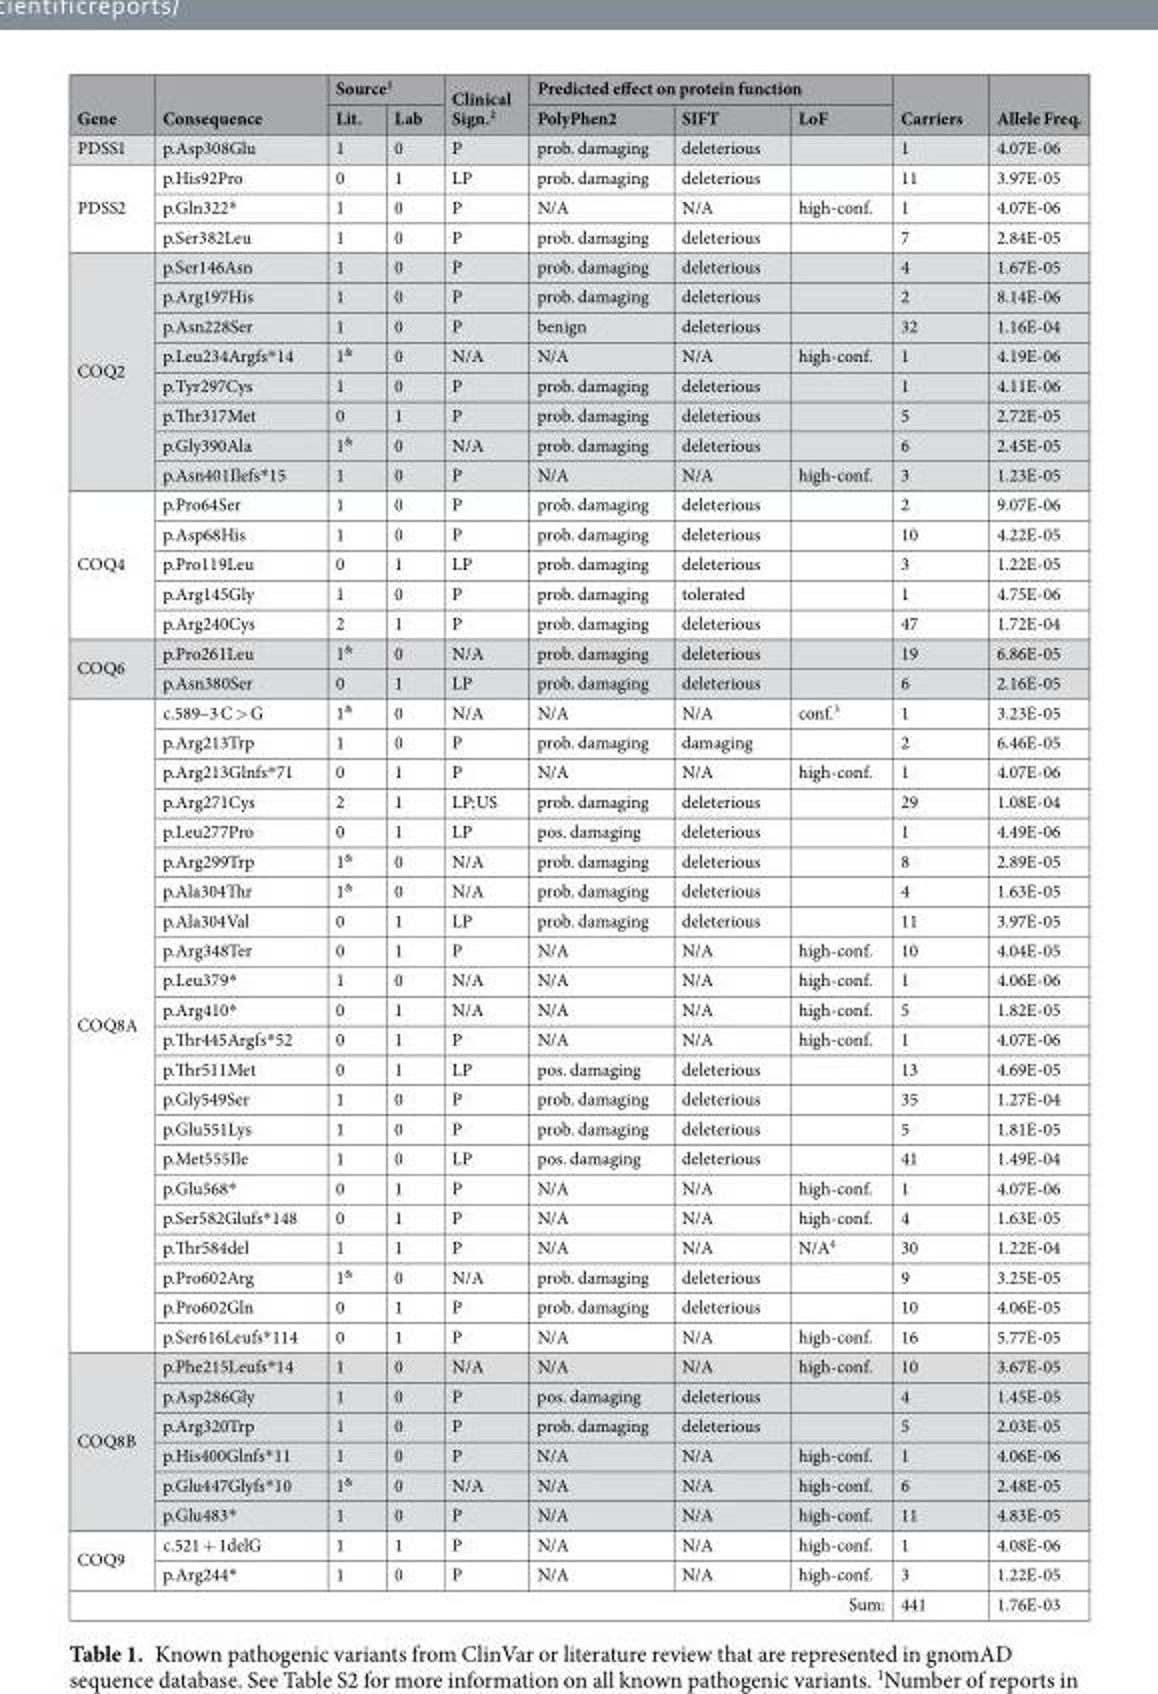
<table><thead><tr><td rowspan="2">Gene</td><td rowspan="2">Consequence</td><td colspan="2">Source<sup>1</sup></td><td rowspan="2">Clinical Sign.<sup>2</sup></td><td colspan="3">Predicted effect on protein function</td><td rowspan="2">Carriers</td><td rowspan="2">Allele Freq.</td></tr><tr><td>Lit.</td><td>Lab</td><td>PolyPhen2</td><td>SIFT</td><td>LoF</td></tr></thead><tbody><tr><td>PDSS1</td><td>p.Asp308Glu</td><td>1</td><td>0</td><td>P</td><td>prob. damaging</td><td>deleterious</td><td></td><td>1</td><td>4.07E-06</td></tr><tr><td rowspan="3">PDSS2</td><td>p.His92Pro</td><td>0</td><td>1</td><td>LP</td><td>prob. damaging</td><td>deleterious</td><td></td><td>11</td><td>3.97E-05</td></tr><tr><td>p.Gln322*</td><td>1</td><td>0</td><td>P</td><td>N/A</td><td>N/A</td><td>high-conf.</td><td>1</td><td>4.07E-06</td></tr><tr><td>p.Ser382Leu</td><td>1</td><td>0</td><td>P</td><td>prob. damaging</td><td>deleterious</td><td></td><td>7</td><td>2.84E-05</td></tr><tr><td rowspan="8">COQ2</td><td>p.Ser146Asn</td><td>1</td><td>0</td><td>P</td><td>prob. damaging</td><td>deleterious</td><td></td><td>4</td><td>1.67E-05</td></tr><tr><td>p.Arg197His</td><td>1</td><td>0</td><td>P</td><td>prob. damaging</td><td>deleterious</td><td></td><td>2</td><td>8.14E-06</td></tr><tr><td>p.Asn228Ser</td><td>1</td><td>0</td><td>P</td><td>benign</td><td>deleterious</td><td></td><td>32</td><td>1.16E-04</td></tr><tr><td>p.Leu234Argfs*14</td><td>1<sup>&amp;</sup></td><td>0</td><td>N/A</td><td>N/A</td><td>N/A</td><td>high-conf.</td><td>1</td><td>4.19E-06</td></tr><tr><td>p.Tyr297Cys</td><td>1</td><td>0</td><td>P</td><td>prob. damaging</td><td>deleterious</td><td></td><td>1</td><td>4.11E-06</td></tr><tr><td>p.Thr317Met</td><td>0</td><td>1</td><td>P</td><td>prob. damaging</td><td>deleterious</td><td></td><td>5</td><td>2.72E-05</td></tr><tr><td>p.Gly390Ala</td><td>1<sup>&amp;</sup></td><td>0</td><td>N/A</td><td>prob. damaging</td><td>deleterious</td><td></td><td>6</td><td>2.45E-05</td></tr><tr><td>p.Asn401Ilefs*15</td><td>1</td><td>0</td><td>P</td><td>N/A</td><td>N/A</td><td>high-conf.</td><td>3</td><td>1.23E-05</td></tr><tr><td rowspan="5">COQ4</td><td>p.Pro64Ser</td><td>1</td><td>0</td><td>P</td><td>prob. damaging</td><td>deleterious</td><td></td><td>2</td><td>9.07E-06</td></tr><tr><td>p.Asp68His</td><td>1</td><td>0</td><td>P</td><td>prob. damaging</td><td>deleterious</td><td></td><td>10</td><td>4.22E-05</td></tr><tr><td>p.Pro119Leu</td><td>0</td><td>1</td><td>LP</td><td>prob. damaging</td><td>deleterious</td><td></td><td>3</td><td>1.22E-05</td></tr><tr><td>p.Arg145Gly</td><td>1</td><td>0</td><td>P</td><td>prob. damaging</td><td>tolerated</td><td></td><td>1</td><td>4.75E-06</td></tr><tr><td>p.Arg240Cys</td><td>2</td><td>1</td><td>P</td><td>prob. damaging</td><td>deleterious</td><td></td><td>47</td><td>1.72E-04</td></tr><tr><td rowspan="2">COQ6</td><td>p.Pro261Leu</td><td>1<sup>&amp;</sup></td><td>0</td><td>N/A</td><td>prob. damaging</td><td>deleterious</td><td></td><td>19</td><td>6.86E-05</td></tr><tr><td>p.Asn380Ser</td><td>0</td><td>1</td><td>LP</td><td>prob. damaging</td><td>deleterious</td><td></td><td>6</td><td>2.16E-05</td></tr><tr><td rowspan="22">COQ8A</td><td>c.589–3 C &gt; G</td><td>1<sup>&amp;</sup></td><td>0</td><td>N/A</td><td>N/A</td><td>N/A</td><td>conf.<sup>3</sup></td><td>1</td><td>3.23E-05</td></tr><tr><td>p.Arg213Trp</td><td>1</td><td>0</td><td>P</td><td>prob. damaging</td><td>damaging</td><td></td><td>2</td><td>6.46E-05</td></tr><tr><td>p.Arg213Glnfs*71</td><td>0</td><td>1</td><td>P</td><td>N/A</td><td>N/A</td><td>high-conf.</td><td>1</td><td>4.07E-06</td></tr><tr><td>p.Arg271Cys</td><td>2</td><td>1</td><td>LP;US</td><td>prob. damaging</td><td>deleterious</td><td></td><td>29</td><td>1.08E-04</td></tr><tr><td>p.Leu277Pro</td><td>0</td><td>1</td><td>LP</td><td>pos. damaging</td><td>deleterious</td><td></td><td>1</td><td>4.49E-06</td></tr><tr><td>p.Arg299Trp</td><td>1<sup>&amp;</sup></td><td>0</td><td>N/A</td><td>prob. damaging</td><td>deleterious</td><td></td><td>8</td><td>2.89E-05</td></tr><tr><td>p.Ala304Thr</td><td>1<sup>&amp;</sup></td><td>0</td><td>N/A</td><td>prob. damaging</td><td>deleterious</td><td></td><td>4</td><td>1.63E-05</td></tr><tr><td>p.Ala304Val</td><td>0</td><td>1</td><td>LP</td><td>prob. damaging</td><td>deleterious</td><td></td><td>11</td><td>3.97E-05</td></tr><tr><td>p.Arg348Ter</td><td>0</td><td>1</td><td>P</td><td>N/A</td><td>N/A</td><td>high-conf.</td><td>10</td><td>4.04E-05</td></tr><tr><td>p.Leu379*</td><td>1</td><td>0</td><td>N/A</td><td>N/A</td><td>N/A</td><td>high-conf.</td><td>1</td><td>4.06E-06</td></tr><tr><td>p.Arg410*</td><td>0</td><td>1</td><td>N/A</td><td>N/A</td><td>N/A</td><td>high-conf.</td><td>5</td><td>1.82E-05</td></tr><tr><td>p.Thr445Argfs*52</td><td>0</td><td>1</td><td>P</td><td>N/A</td><td>N/A</td><td>high-conf.</td><td>1</td><td>4.07E-06</td></tr><tr><td>p.Thr511Met</td><td>0</td><td>1</td><td>LP</td><td>pos. damaging</td><td>deleterious</td><td></td><td>13</td><td>4.69E-05</td></tr><tr><td>p.Gly549Ser</td><td>1</td><td>0</td><td>P</td><td>prob. damaging</td><td>deleterious</td><td></td><td>35</td><td>1.27E-04</td></tr><tr><td>p.Glu551Lys</td><td>1</td><td>0</td><td>P</td><td>prob. damaging</td><td>deleterious</td><td></td><td>5</td><td>1.81E-05</td></tr><tr><td>p.Met555Ile</td><td>1</td><td>0</td><td>LP</td><td>pos. damaging</td><td>deleterious</td><td></td><td>41</td><td>1.49E-04</td></tr><tr><td>p.Glu568*</td><td>0</td><td>1</td><td>P</td><td>N/A</td><td>N/A</td><td>high-conf.</td><td>1</td><td>4.07E-06</td></tr><tr><td>p.Ser582Glufs*148</td><td>0</td><td>1</td><td>P</td><td>N/A</td><td>N/A</td><td>high-conf.</td><td>4</td><td>1.63E-05</td></tr><tr><td>p.Thr584del</td><td>1</td><td>1</td><td>P</td><td>N/A</td><td>N/A</td><td>N/A<sup>4</sup></td><td>30</td><td>1.22E-04</td></tr><tr><td>p.Pro602Arg</td><td>1<sup>&amp;</sup></td><td>0</td><td>N/A</td><td>prob. damaging</td><td>deleterious</td><td></td><td>9</td><td>3.25E-05</td></tr><tr><td>p.Pro602Gln</td><td>0</td><td>1</td><td>P</td><td>prob. damaging</td><td>deleterious</td><td></td><td>10</td><td>4.06E-05</td></tr><tr><td>p.Ser616Leufs*114</td><td>0</td><td>1</td><td>P</td><td>N/A</td><td>N/A</td><td>high-conf.</td><td>16</td><td>5.77E-05</td></tr><tr><td rowspan="6">COQ8B</td><td>p.Phe215Leufs*14</td><td>1</td><td>0</td><td>N/A</td><td>N/A</td><td>N/A</td><td>high-conf.</td><td>10</td><td>3.67E-05</td></tr><tr><td>p.Asp286Gly</td><td>1</td><td>0</td><td>P</td><td>pos. damaging</td><td>deleterious</td><td></td><td>4</td><td>1.45E-05</td></tr><tr><td>p.Arg320Trp</td><td>1</td><td>0</td><td>P</td><td>prob. damaging</td><td>deleterious</td><td></td><td>5</td><td>2.03E-05</td></tr><tr><td>p.His400Glnfs*11</td><td>1</td><td>0</td><td>P</td><td>N/A</td><td>N/A</td><td>high-conf.</td><td>1</td><td>4.06E-06</td></tr><tr><td>p.Glu447Glyfs*10</td><td>1<sup>&amp;</sup></td><td>0</td><td>N/A</td><td>N/A</td><td>N/A</td><td>high-conf.</td><td>6</td><td>2.48E-05</td></tr><tr><td>p.Glu483*</td><td>1</td><td>0</td><td>P</td><td>N/A</td><td>N/A</td><td>high-conf.</td><td>11</td><td>4.83E-05</td></tr><tr><td rowspan="2">COQ9</td><td>c.521 + 1delG</td><td>1</td><td>1</td><td>P</td><td>N/A</td><td>N/A</td><td>high-conf.</td><td>1</td><td>4.08E-06</td></tr><tr><td>p.Arg244*</td><td>1</td><td>0</td><td>P</td><td>N/A</td><td>N/A</td><td>high-conf.</td><td>3</td><td>1.22E-05</td></tr><tr><td colspan="8">Sum:</td><td>441</td><td>1.76E-03</td></tr></tbody></table>